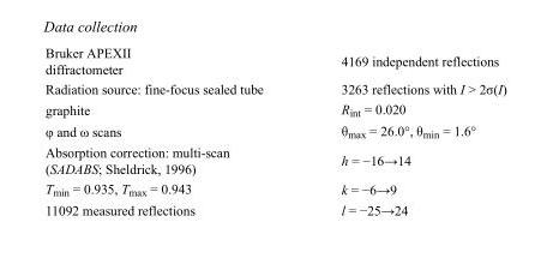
<table><tbody><tr><td>Bruker APEXII diffractometer</td><td>4169 independent reflections</td></tr><tr><td>Radiation source: fine-focus sealed tube</td><td>3263 reflections with I &gt; 2σ(I)</td></tr><tr><td>graphite</td><td>R<sub>int</sub> = 0.020</td></tr><tr><td>φ and ω scans</td><td>θ<sub>max</sub> = 26.0°, θ<sub>min</sub> = 1.6°</td></tr><tr><td>Absorption correction: multi-scan (SADABS; Sheldrick, 1996)</td><td>h = −16→14</td></tr><tr><td>T<sub>min</sub> = 0.935, T<sub>max</sub> = 0.943</td><td>k = −6→9</td></tr><tr><td>11092 measured reflections</td><td>l = −25→24</td></tr></tbody></table>